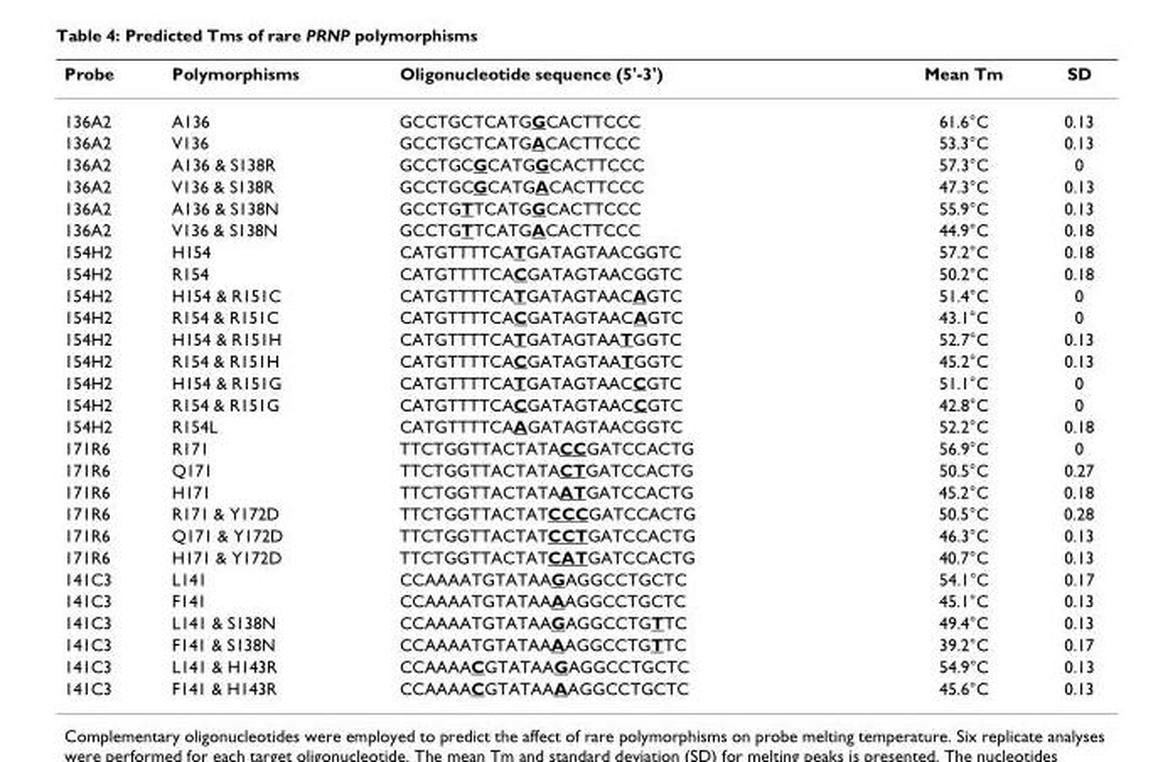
<table><thead><tr><td>Probe</td><td>Polymorphisms</td><td>Oligonucleotide sequence (5&#x27;-3&#x27;)</td><td>Mean Tm</td><td>SD</td></tr></thead><tbody><tr><td>136A2</td><td>A136</td><td>GCCTGCTCATGGCACTTCCC</td><td>61.6°C</td><td>0.13</td></tr><tr><td>136A2</td><td>V136</td><td>GCCTGCTCATGACACTTCCC</td><td>53.3°C</td><td>0.13</td></tr><tr><td>136A2</td><td>A136 &amp; S138R</td><td>GCCTGCGCATGGCACTTCCC</td><td>57.3°C</td><td>0</td></tr><tr><td>136A2</td><td>V136 &amp; S138R</td><td>GCCTGCGCATGACACTTCCC</td><td>47.3°C</td><td>0.13</td></tr><tr><td>136A2</td><td>A136 &amp; S138N</td><td>GCCTGTTCATGGCACTTCCC</td><td>55.9°C</td><td>0.13</td></tr><tr><td>136A2</td><td>V136 &amp; S138N</td><td>GCCTGTTCATGACACTTCCC</td><td>44.9°C</td><td>0.18</td></tr><tr><td>154H2</td><td>H154</td><td>CATGTTTTCATGATAGTAACGGTC</td><td>57.2°C</td><td>0.18</td></tr><tr><td>154H2</td><td>R154</td><td>CATGTTTTCACGATAGTAACGGTC</td><td>50.2°C</td><td>0.18</td></tr><tr><td>154H2</td><td>H154 &amp; R151C</td><td>CATGTTTTCATGATAGTAACAGTC</td><td>51.4°C</td><td>0</td></tr><tr><td>154H2</td><td>R154 &amp; R151C</td><td>CATGTTTTCACGATAGTAACAGTC</td><td>43.1°C</td><td>0</td></tr><tr><td>154H2</td><td>H154 &amp; R151H</td><td>CATGTTTTCATGATAGTAATGGTC</td><td>52.7°C</td><td>0.13</td></tr><tr><td>154H2</td><td>R154 &amp; R151H</td><td>CATGTTTTCACGATAGTAATGGTC</td><td>45.2°C</td><td>0.13</td></tr><tr><td>154H2</td><td>H154 &amp; R151G</td><td>CATGTTTTCATGATAGTAACCGTC</td><td>51.1°C</td><td>0</td></tr><tr><td>154H2</td><td>R154 &amp; R151G</td><td>CATGTTTTCACGATAGTAACCGTC</td><td>42.8°C</td><td>0</td></tr><tr><td>154H2</td><td>R154L</td><td>CATGTTTTCAAGATAGTAACGGTC</td><td>52.2°C</td><td>0.18</td></tr><tr><td>171R6</td><td>R171</td><td>TTCTGGTTACTATACCGATCCACTG</td><td>56.9°C</td><td>0</td></tr><tr><td>171R6</td><td>Q171</td><td>TTCTGGTTACTATACTGATCCACTG</td><td>50.5°C</td><td>0.27</td></tr><tr><td>171R6</td><td>H171</td><td>TTCTGGTTACTATAATGATCCACTG</td><td>45.2°C</td><td>0.18</td></tr><tr><td>171R6</td><td>R171 &amp; Y172D</td><td>TTCTGGTTACTATCCCGATCCACTG</td><td>50.5°C</td><td>0.28</td></tr><tr><td>171R6</td><td>Q171 &amp; Y172D</td><td>TTCTGGTTACTATCCTGATCCACTG</td><td>46.3°C</td><td>0.13</td></tr><tr><td>171R6</td><td>H171 &amp; Y172D</td><td>TTCTGGTTACTATCATGATCCACTG</td><td>40.7°C</td><td>0.13</td></tr><tr><td>141C3</td><td>L141</td><td>CCAAAATGTATAAGAGGCCTGCTC</td><td>54.1°C</td><td>0.17</td></tr><tr><td>141C3</td><td>F141</td><td>CCAAAATGTATAAAAGGCCTGCTC</td><td>45.1°C</td><td>0.13</td></tr><tr><td>141C3</td><td>L141 &amp; S138N</td><td>CCAAAATGTATAAGAGGCCTGTTC</td><td>49.4°C</td><td>0.13</td></tr><tr><td>141C3</td><td>F141 &amp; S138N</td><td>CCAAAATGTATAAAAGGCCTGTTC</td><td>39.2°C</td><td>0.17</td></tr><tr><td>141C3</td><td>L141 &amp; H143R</td><td>CCAAAACGTATAAGAGGCCTGCTC</td><td>54.9°C</td><td>0.13</td></tr><tr><td>141C3</td><td>F141 &amp; H143R</td><td>CCAAAACGTATAAAAGGCCTGCTC</td><td>45.6°C</td><td>0.13</td></tr></tbody></table>